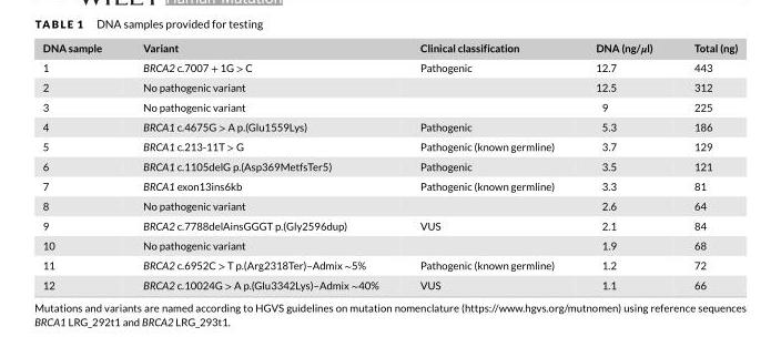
<table><thead><tr><td>DNA sample</td><td>Variant</td><td>Clinical classification</td><td>DNA (ng/𝝁l)</td><td>Total (ng)</td></tr></thead><tbody><tr><td>1</td><td>BRCA2 c.7007 + 1G &gt; C</td><td>Pathogenic</td><td>12.7</td><td>443</td></tr><tr><td>2</td><td>No pathogenic variant</td><td></td><td>12.5</td><td>312</td></tr><tr><td>3</td><td>No pathogenic variant</td><td></td><td>9</td><td>225</td></tr><tr><td>4</td><td>BRCA1 c.4675G &gt; A p.(Glu1559Lys)</td><td>Pathogenic</td><td>5.3</td><td>186</td></tr><tr><td>5</td><td>BRCA1 c.213-11T &gt; G</td><td>Pathogenic (known germline)</td><td>3.7</td><td>129</td></tr><tr><td>6</td><td>BRCA1 c.1105delG p.(Asp369MetfsTer5)</td><td>Pathogenic</td><td>3.5</td><td>121</td></tr><tr><td>7</td><td>BRCA1 exon13ins6kb</td><td>Pathogenic (known germline)</td><td>3.3</td><td>81</td></tr><tr><td>8</td><td>No pathogenic variant</td><td></td><td>2.6</td><td>64</td></tr><tr><td>9</td><td>BRCA2 c.7788delAinsGGGT p.(Gly2596dup)</td><td>VUS</td><td>2.1</td><td>84</td></tr><tr><td>10</td><td>No pathogenic variant</td><td></td><td>1.9</td><td>68</td></tr><tr><td>11</td><td>BRCA2 c.6952C &gt; T p.(Arg2318Ter)–Admix ∼5%</td><td>Pathogenic (known germline)</td><td>1.2</td><td>72</td></tr><tr><td>12</td><td>BRCA2 c.10024G &gt; A p.(Glu3342Lys)–Admix ∼40%</td><td>VUS</td><td>1.1</td><td>66</td></tr></tbody></table>